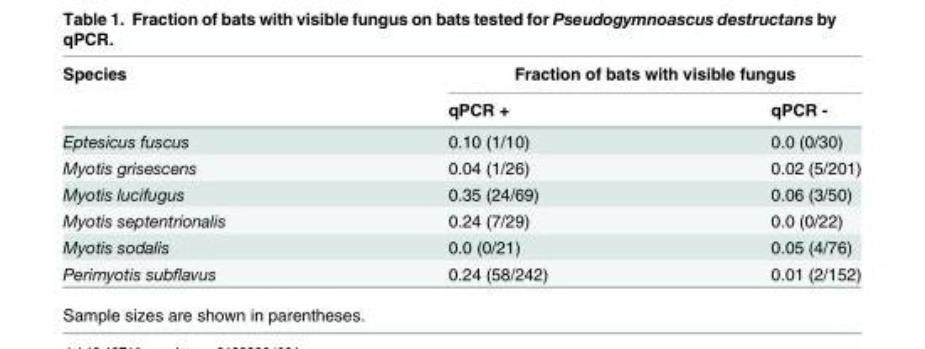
<table><thead><tr><td rowspan="2">Species</td><td colspan="2">Fraction of bats with visible fungus</td></tr><tr><td>qPCR +</td><td>qPCR -</td></tr></thead><tbody><tr><td>Eptesicus fuscus</td><td>0.10 (1/10)</td><td>0.0 (0/30)</td></tr><tr><td>Myotis grisescens</td><td>0.04 (1/26)</td><td>0.02 (5/201)</td></tr><tr><td>Myotis lucifugus</td><td>0.35 (24/69)</td><td>0.06 (3/50)</td></tr><tr><td>Myotis septentrionalis</td><td>0.24 (7/29)</td><td>0.0 (0/22)</td></tr><tr><td>Myotis sodalis</td><td>0.0 (0/21)</td><td>0.05 (4/76)</td></tr><tr><td>Perimyotis subflavus</td><td>0.24 (58/242)</td><td>0.01 (2/152)</td></tr></tbody></table>